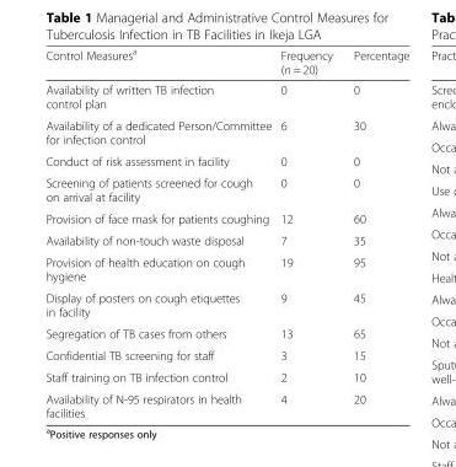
<table><thead><tr><td>Control Measures<sup>a</sup></td><td>Frequency (n = 20)</td><td>Percentage</td></tr></thead><tbody><tr><td>Availability of written TB infection control plan</td><td>0</td><td>0</td></tr><tr><td>Availability of a dedicated Person/Committee for infection control</td><td>6</td><td>30</td></tr><tr><td>Conduct of risk assessment in facility</td><td>0</td><td>0</td></tr><tr><td>Screening of patients screened for cough on arrival at facility</td><td>0</td><td>0</td></tr><tr><td>Provision of face mask for patients coughing</td><td>12</td><td>60</td></tr><tr><td>Availability of non-touch waste disposal</td><td>7</td><td>35</td></tr><tr><td>Provision of health education on cough hygiene</td><td>19</td><td>95</td></tr><tr><td>Display of posters on cough etiquettes in facility</td><td>9</td><td>45</td></tr><tr><td>Segregation of TB cases from others</td><td>13</td><td>65</td></tr><tr><td>Confidential TB screening for staff</td><td>3</td><td>15</td></tr><tr><td>Staff training on TB infection control</td><td>2</td><td>10</td></tr><tr><td>Availability of N-95 respirators in health facilities</td><td>4</td><td>20</td></tr></tbody></table>